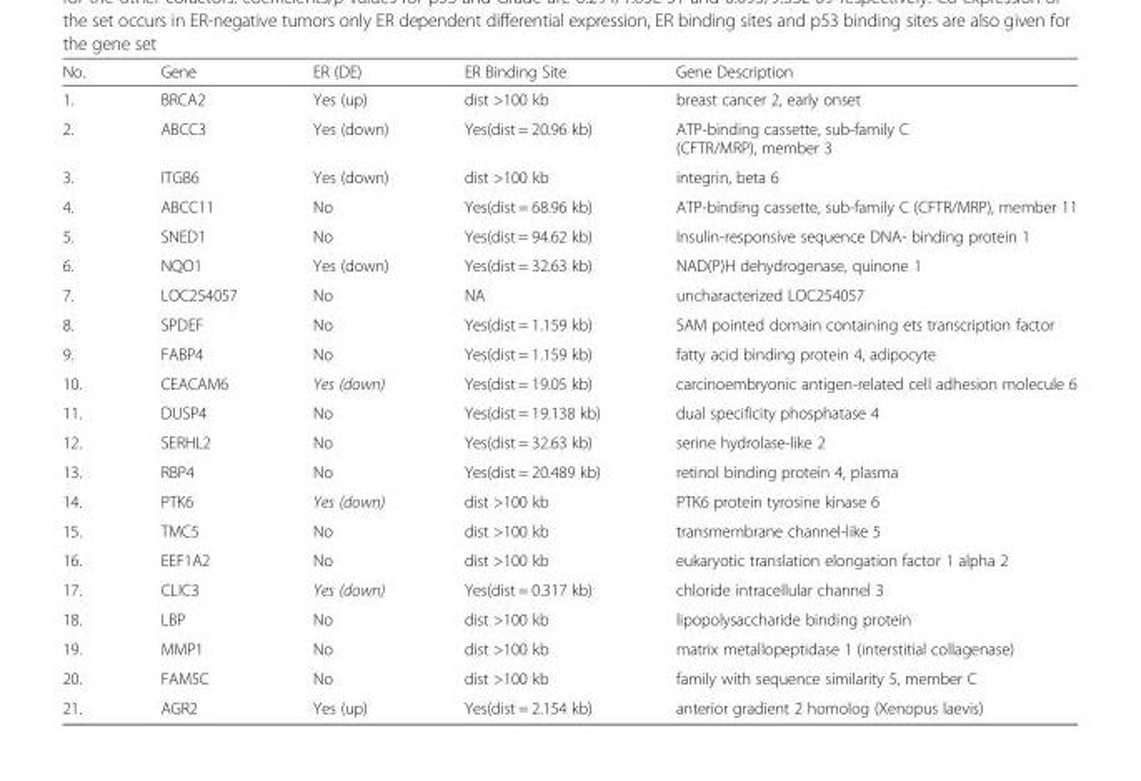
<table><thead><tr><td>No.</td><td>Gene</td><td>ER (DE)</td><td>ER Binding Site</td><td>Gene Description</td></tr></thead><tbody><tr><td>1.</td><td>BRCA2</td><td>Yes (up)</td><td>dist &gt;100 kb</td><td>breast cancer 2, early onset</td></tr><tr><td>2.</td><td>ABCC3</td><td>Yes (down)</td><td>Yes(dist = 20.96 kb)</td><td>ATP-binding cassette, sub-family C (CFTR/MRP), member 3</td></tr><tr><td>3.</td><td>ITGB6</td><td>Yes (down)</td><td>dist &gt;100 kb</td><td>integrin, beta 6</td></tr><tr><td>4.</td><td>ABCC11</td><td>No</td><td>Yes(dist = 68.96 kb)</td><td>ATP-binding cassette, sub-family C (CFTR/MRP), member 11</td></tr><tr><td>5.</td><td>SNED1</td><td>No</td><td>Yes(dist = 94.62 kb)</td><td>Insulin-responsive sequence DNA- binding protein 1</td></tr><tr><td>6.</td><td>NQO1</td><td>Yes (down)</td><td>Yes(dist = 32.63 kb)</td><td>NAD(P)H dehydrogenase, quinone 1</td></tr><tr><td>7.</td><td>LOC254057</td><td>No</td><td>NA</td><td>uncharacterized LOC254057</td></tr><tr><td>8.</td><td>SPDEF</td><td>No</td><td>Yes(dist = 1.159 kb)</td><td>SAM pointed domain containing ets transcription factor</td></tr><tr><td>9.</td><td>FABP4</td><td>No</td><td>Yes(dist = 1.159 kb)</td><td>fatty acid binding protein 4, adipocyte</td></tr><tr><td>10.</td><td>CEACAM6</td><td>Yes (down)</td><td>Yes(dist = 19.05 kb)</td><td>carcinoembryonic antigen-related cell adhesion molecule 6</td></tr><tr><td>11.</td><td>DUSP4</td><td>No</td><td>Yes(dist = 19.138 kb)</td><td>dual specificity phosphatase 4</td></tr><tr><td>12.</td><td>SERHL2</td><td>No</td><td>Yes(dist = 32.63 kb)</td><td>serine hydrolase-like 2</td></tr><tr><td>13.</td><td>RBP4</td><td>No</td><td>Yes(dist = 20.489 kb)</td><td>retinol binding protein 4, plasma</td></tr><tr><td>14.</td><td>PTK6</td><td>Yes (down)</td><td>dist &gt;100 kb</td><td>PTK6 protein tyrosine kinase 6</td></tr><tr><td>15.</td><td>TMC5</td><td>No</td><td>dist &gt;100 kb</td><td>transmembrane channel-like 5</td></tr><tr><td>16.</td><td>EEF1A2</td><td>No</td><td>dist &gt;100 kb</td><td>eukaryotic translation elongation factor 1 alpha 2</td></tr><tr><td>17.</td><td>CLIC3</td><td>Yes (down)</td><td>Yes(dist = 0.317 kb)</td><td>chloride intracellular channel 3</td></tr><tr><td>18.</td><td>LBP</td><td>No</td><td>dist &gt;100 kb</td><td>lipopolysaccharide binding protein</td></tr><tr><td>19.</td><td>MMP1</td><td>No</td><td>dist &gt;100 kb</td><td>matrix metallopeptidase 1 (interstitial collagenase)</td></tr><tr><td>20.</td><td>FAM5C</td><td>No</td><td>dist &gt;100 kb</td><td>family with sequence similarity 5, member C</td></tr><tr><td>21.</td><td>AGR2</td><td>Yes (up)</td><td>Yes(dist = 2.154 kb)</td><td>anterior gradient 2 homolog (Xenopus laevis)</td></tr></tbody></table>